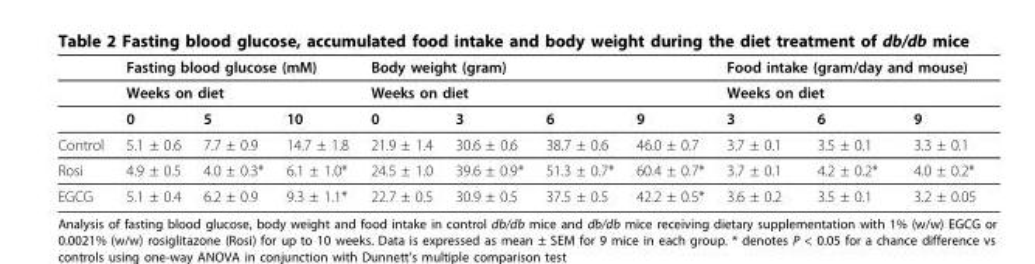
<table><thead><tr><td rowspan="3"></td><td rowspan="2" colspan="3">Fasting blood glucose (mM) Weeks on diet</td><td rowspan="2" colspan="4">Body weight (gram) Weeks on diet</td><td rowspan="2" colspan="3">Food intake (gram/day and mouse) Weeks on diet</td></tr><tr></tr><tr><td>0</td><td>5</td><td>10</td><td>0</td><td>3</td><td>6</td><td>9</td><td>3</td><td>6</td><td>9</td></tr></thead><tbody><tr><td>Control</td><td>5.1 ± 0.6</td><td>7.7 ± 0.9</td><td>14.7 ± 1.8</td><td>21.9 ± 1.4</td><td>30.6 ± 0.6</td><td>38.7 ± 0.6</td><td>46.0 ± 0.7</td><td>3.7 ± 0.1</td><td>3.5 ± 0.1</td><td>3.3 ± 0.1</td></tr><tr><td>Rosi</td><td>4.9 ± 0.5</td><td>4.0 ± 0.3*</td><td>6.1 ± 1.0*</td><td>24.5 ± 1.0</td><td>39.6 ± 0.9*</td><td>51.3 ± 0.7*</td><td>60.4 ± 0.7*</td><td>3.7 ± 0.1</td><td>4.2 ± 0.2*</td><td>4.0 ± 0.2*</td></tr><tr><td>EGCG</td><td>5.1 ± 0.4</td><td>6.2 ± 0.9</td><td>9.3 ± 1.1*</td><td>22.7 ± 0.5</td><td>30.9 ± 0.5</td><td>37.5 ± 0.5</td><td>42.2 ± 0.5*</td><td>3.6 ± 0.2</td><td>3.5 ± 0.1</td><td>3.2 ± 0.05</td></tr></tbody></table>